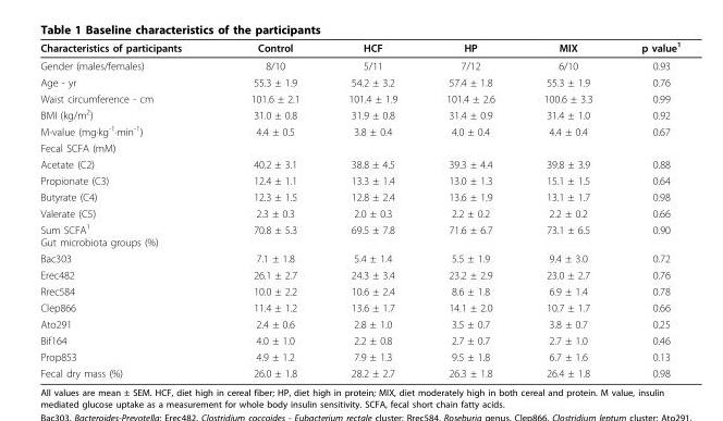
<table><thead><tr><td>Characteristics of participants</td><td>Control</td><td>HCF</td><td>HP</td><td>MIX</td><td>p value<sup>1</sup></td></tr></thead><tbody><tr><td>Gender (males/females)</td><td>8/10</td><td>5/11</td><td>7/12</td><td>6/10</td><td>0.93</td></tr><tr><td>Age - yr</td><td>55.3 ± 1.9</td><td>54.2 ± 3.2</td><td>57.4 ± 1.8</td><td>55.3 ± 1.9</td><td>0.76</td></tr><tr><td>Waist circumference - cm</td><td>101.6 ± 2.1</td><td>101.4 ± 1.9</td><td>101.4 ± 2.6</td><td>100.6 ± 3.3</td><td>0.99</td></tr><tr><td>BMI (kg/m<sup>2</sup>)</td><td>31.0 ± 0.8</td><td>31.9 ± 0.8</td><td>31.4 ± 0.9</td><td>31.4 ± 1.0</td><td>0.92</td></tr><tr><td>M-value (mg·kg<sup>-1</sup>·min<sup>-1</sup>)</td><td>4.4 ± 0.5</td><td>3.8 ± 0.4</td><td>4.0 ± 0.4</td><td>4.4 ± 0.4</td><td>0.67</td></tr><tr><td colspan="6">Fecal SCFA (mM)</td></tr><tr><td>Acetate (C2)</td><td>40.2 ± 3.1</td><td>38.8 ± 4.5</td><td>39.3 ± 4.4</td><td>39.8 ± 3.9</td><td>0.88</td></tr><tr><td>Propionate (C3)</td><td>12.4 ± 1.1</td><td>13.3 ± 1.4</td><td>13.0 ± 1.3</td><td>15.1 ± 1.5</td><td>0.64</td></tr><tr><td>Butyrate (C4)</td><td>12.3 ± 1.5</td><td>12.8 ± 2.4</td><td>13.6 ± 1.9</td><td>13.1 ± 1.7</td><td>0.98</td></tr><tr><td>Valerate (C5)</td><td>2.3 ± 0.3</td><td>2.0 ± 0.3</td><td>2.2 ± 0.2</td><td>2.2 ± 0.2</td><td>0.66</td></tr><tr><td>Sum SCFA<sup>1</sup> Gut microbiota groups (%)</td><td>70.8 ± 5.3</td><td>69.5 ± 7.8</td><td>71.6 ± 6.7</td><td>73.1 ± 6.5</td><td>0.90</td></tr><tr><td>Bac303</td><td>7.1 ± 1.8</td><td>5.4 ± 1.4</td><td>5.5 ± 1.9</td><td>9.4 ± 3.0</td><td>0.72</td></tr><tr><td>Erec482</td><td>26.1 ± 2.7</td><td>24.3 ± 3.4</td><td>23.2 ± 2.9</td><td>23.0 ± 2.7</td><td>0.76</td></tr><tr><td>Rrec584</td><td>10.0 ± 2.2</td><td>10.6 ± 2.4</td><td>8.6 ± 1.8</td><td>6.9 ± 1.4</td><td>0.78</td></tr><tr><td>Clep866</td><td>11.4 ± 1.2</td><td>13.6 ± 1.7</td><td>14.1 ± 2.0</td><td>10.7 ± 1.7</td><td>0.66</td></tr><tr><td>Ato291</td><td>2.4 ± 0.6</td><td>2.8 ± 1.0</td><td>3.5 ± 0.7</td><td>3.8 ± 0.7</td><td>0.25</td></tr><tr><td>Bif164</td><td>4.0 ± 1.0</td><td>2.2 ± 0.8</td><td>2.7 ± 0.7</td><td>2.7 ± 1.0</td><td>0.46</td></tr><tr><td>Prop853</td><td>4.9 ± 1.2</td><td>7.9 ± 1.3</td><td>9.5 ± 1.8</td><td>6.7 ± 1.6</td><td>0.13</td></tr><tr><td>Fecal dry mass (%)</td><td>26.0 ± 1.8</td><td>28.2 ± 2.7</td><td>26.3 ± 1.8</td><td>26.4 ± 1.8</td><td>0.98</td></tr></tbody></table>